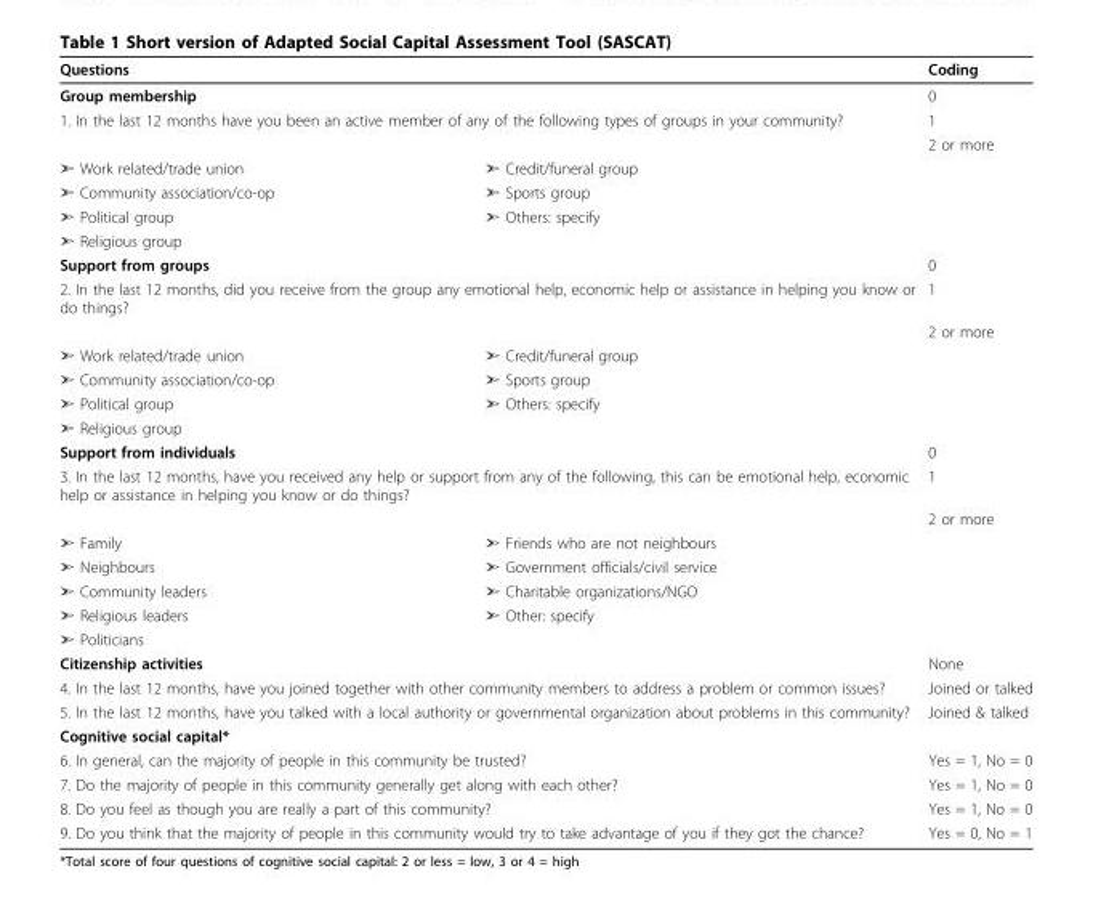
<table><thead><tr><td rowspan="3" colspan="2">Questions Group membership 1. In the last 12 months have you been an active member of any of the following types of groups in your community?</td><td rowspan="4">Coding 0 1 2 or more</td></tr><tr></tr><tr></tr><tr><td></td><td></td></tr></thead><tbody><tr><td>➣ Work related/trade union</td><td>➣ Credit/funeral group</td><td></td></tr><tr><td>➣ Community association/co-op</td><td>➣ Sports group</td><td></td></tr><tr><td>➣ Political group</td><td>➣ Others: specify</td><td></td></tr><tr><td colspan="3">➣ Religious group</td></tr><tr><td colspan="2">Support from groups</td><td>0</td></tr><tr><td colspan="2">2. In the last 12 months, did you receive from the group any emotional help, economic help or assistance in helping you know or do things?</td><td>1</td></tr><tr><td></td><td></td><td>2 or more</td></tr><tr><td>➣ Work related/trade union</td><td>➣ Credit/funeral group</td><td></td></tr><tr><td>➣ Community association/co-op</td><td>➣ Sports group</td><td></td></tr><tr><td>➣ Political group</td><td>➣ Others: specify</td><td></td></tr><tr><td colspan="3">➣ Religious group</td></tr><tr><td colspan="2">Support from individuals</td><td>0</td></tr><tr><td colspan="2">3. In the last 12 months, have you received any help or support from any of the following, this can be emotional help, economic help or assistance in helping you know or do things?</td><td>1</td></tr><tr><td></td><td></td><td>2 or more</td></tr><tr><td>➣ Family</td><td>➣ Friends who are not neighbours</td><td></td></tr><tr><td>➣ Neighbours</td><td>➣ Government officials/civil service</td><td></td></tr><tr><td>➣ Community leaders</td><td>➣ Charitable organizations/NGO</td><td></td></tr><tr><td>➣ Religious leaders</td><td>➣ Other: specify</td><td></td></tr><tr><td colspan="3">➣ Politicians</td></tr><tr><td colspan="2">Citizenship activities</td><td>None</td></tr><tr><td colspan="2">4. In the last 12 months, have you joined together with other community members to address a problem or common issues?</td><td>Joined or talked</td></tr><tr><td colspan="2">5. In the last 12 months, have you talked with a local authority or governmental organization about problems in this community?</td><td>Joined &amp; talked</td></tr><tr><td colspan="3">Cognitive social capital*</td></tr><tr><td colspan="2">6. In general, can the majority of people in this community be trusted?</td><td>Yes = 1, No = 0</td></tr><tr><td colspan="2">7. Do the majority of people in this community generally get along with each other?</td><td>Yes = 1, No = 0</td></tr><tr><td colspan="2">8. Do you feel as though you are really a part of this community?</td><td>Yes = 1, No = 0</td></tr><tr><td colspan="2">9. Do you think that the majority of people in this community would try to take advantage of you if they got the chance?</td><td>Yes = 0, No = 1</td></tr></tbody></table>